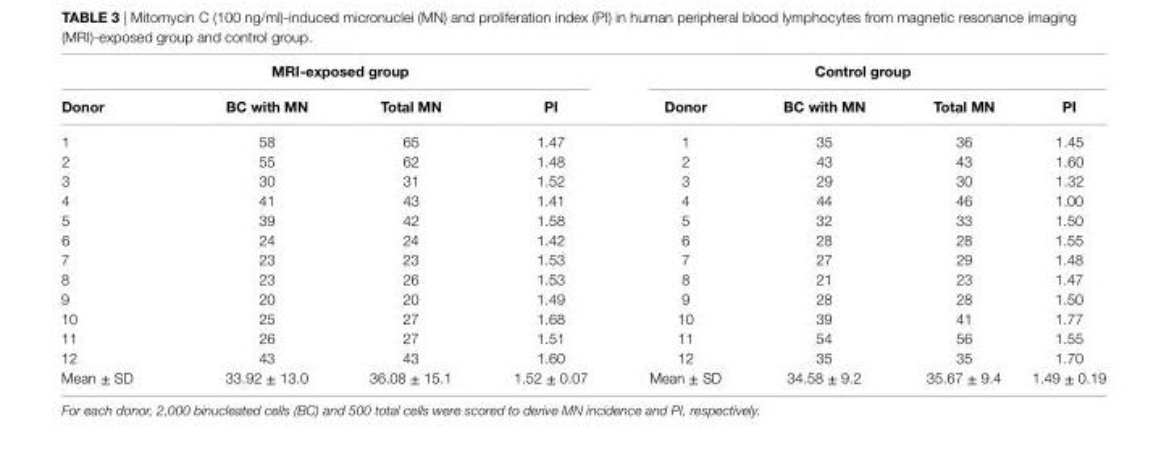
<table><thead><tr><td colspan="4">Mri-exposed group</td><td colspan="4">control group</td></tr><tr><td>Donor</td><td>Bc with Mn</td><td>Total Mn</td><td>Pi</td><td>Donor</td><td>Bc with Mn</td><td>Total Mn</td><td>Pi</td></tr></thead><tbody><tr><td>1</td><td>58</td><td>65</td><td>1.47</td><td>1</td><td>35</td><td>36</td><td>1.45</td></tr><tr><td>2</td><td>55</td><td>62</td><td>1.48</td><td>2</td><td>43</td><td>43</td><td>1.60</td></tr><tr><td>3</td><td>30</td><td>31</td><td>1.52</td><td>3</td><td>29</td><td>30</td><td>1.32</td></tr><tr><td>4</td><td>41</td><td>43</td><td>1.41</td><td>4</td><td>44</td><td>46</td><td>1.00</td></tr><tr><td>5</td><td>39</td><td>42</td><td>1.58</td><td>5</td><td>32</td><td>33</td><td>1.50</td></tr><tr><td>6</td><td>24</td><td>24</td><td>1.42</td><td>6</td><td>28</td><td>28</td><td>1.55</td></tr><tr><td>7</td><td>23</td><td>23</td><td>1.53</td><td>7</td><td>27</td><td>29</td><td>1.48</td></tr><tr><td>8</td><td>23</td><td>26</td><td>1.53</td><td>8</td><td>21</td><td>23</td><td>1.47</td></tr><tr><td>9</td><td>20</td><td>20</td><td>1.49</td><td>9</td><td>28</td><td>28</td><td>1.50</td></tr><tr><td>10</td><td>25</td><td>27</td><td>1.68</td><td>10</td><td>39</td><td>41</td><td>1.77</td></tr><tr><td>11</td><td>26</td><td>27</td><td>1.51</td><td>11</td><td>54</td><td>56</td><td>1.55</td></tr><tr><td>12</td><td>43</td><td>43</td><td>1.60</td><td>12</td><td>35</td><td>35</td><td>1.70</td></tr><tr><td>Mean ± SD</td><td>33.92 ± 13.0</td><td>36.08 ± 15.1</td><td>1.52 ± 0.07</td><td>Mean ± SD</td><td>34.58 ± 9.2</td><td>35.67 ± 9.4</td><td>1.49 ± 0.19</td></tr></tbody></table>